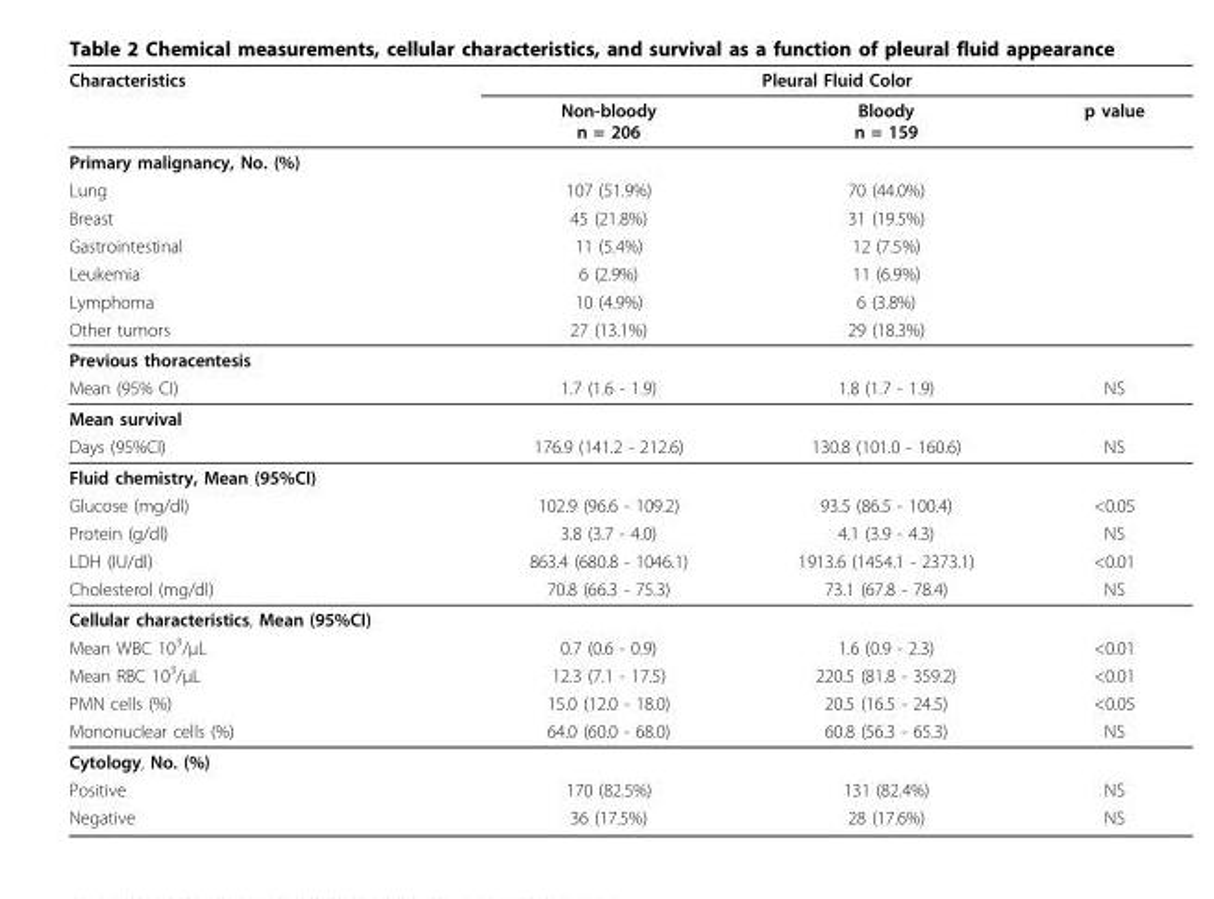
<table><thead><tr><td rowspan="2">Characteristics</td><td colspan="3">Pleural Fluid Color</td></tr><tr><td>Non-bloody n = 206</td><td>Bloody n = 159</td><td>p value</td></tr></thead><tbody><tr><td colspan="4">Primary malignancy, No. (%)</td></tr><tr><td>Lung</td><td>107 (51.9%)</td><td>70 (44.0%)</td><td></td></tr><tr><td>Breast</td><td>45 (21.8%)</td><td>31 (19.5%)</td><td></td></tr><tr><td>Gastrointestinal</td><td>11 (5.4%)</td><td>12 (7.5%)</td><td></td></tr><tr><td>Leukemia</td><td>6 (2.9%)</td><td>11 (6.9%)</td><td></td></tr><tr><td>Lymphoma</td><td>10 (4.9%)</td><td>6 (3.8%)</td><td></td></tr><tr><td>Other tumors</td><td>27 (13.1%)</td><td>29 (18.3%)</td><td></td></tr><tr><td colspan="4">Previous thoracentesis</td></tr><tr><td>Mean (95% CI)</td><td>1.7 (1.6 - 1.9)</td><td>1.8 (1.7 - 1.9)</td><td>NS</td></tr><tr><td colspan="4">Mean survival</td></tr><tr><td>Days (95%CI)</td><td>176.9 (141.2 - 212.6)</td><td>130.8 (101.0 - 160.6)</td><td>NS</td></tr><tr><td colspan="4">Fluid chemistry, Mean (95%CI)</td></tr><tr><td>Glucose (mg/dl)</td><td>102.9 (96.6 - 109.2)</td><td>93.5 (86.5 - 100.4)</td><td>&lt;0.05</td></tr><tr><td>Protein (g/dl)</td><td>3.8 (3.7 - 4.0)</td><td>4.1 (3.9 - 4.3)</td><td>NS</td></tr><tr><td>LDH (IU/dl)</td><td>863.4 (680.8 - 1046.1)</td><td>1913.6 (1454.1 - 2373.1)</td><td>&lt;0.01</td></tr><tr><td>Cholesterol (mg/dl)</td><td>70.8 (66.3 - 75.3)</td><td>73.1 (67.8 - 78.4)</td><td>NS</td></tr><tr><td colspan="4">Cellular characteristics, Mean (95%CI)</td></tr><tr><td>Mean WBC 10<sup>3</sup>/μL</td><td>0.7 (0.6 - 0.9)</td><td>1.6 (0.9 - 2.3)</td><td>&lt;0.01</td></tr><tr><td>Mean RBC 10<sup>3</sup>/μL</td><td>12.3 (7.1 - 17.5)</td><td>220.5 (81.8 - 359.2)</td><td>&lt;0.01</td></tr><tr><td>PMN cells (%)</td><td>15.0 (12.0 - 18.0)</td><td>20.5 (16.5 - 24.5)</td><td>&lt;0.05</td></tr><tr><td>Mononuclear cells (%)</td><td>64.0 (60.0 - 68.0)</td><td>60.8 (56.3 - 65.3)</td><td>NS</td></tr><tr><td colspan="4">Cytology, No. (%)</td></tr><tr><td>Positive</td><td>170 (82.5%)</td><td>131 (82.4%)</td><td>NS</td></tr><tr><td>Negative</td><td>36 (17.5%)</td><td>28 (17.6%)</td><td>NS</td></tr></tbody></table>